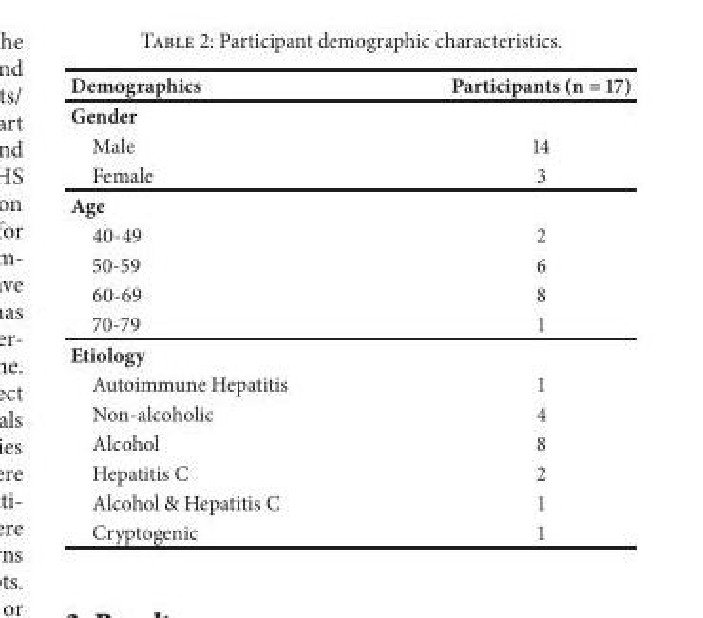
<table><thead><tr><td>Demographics</td><td>Participants (n = 17)</td></tr></thead><tbody><tr><td colspan="2">Gender</td></tr><tr><td>Male</td><td>14</td></tr><tr><td>Female</td><td>3</td></tr><tr><td colspan="2">Age</td></tr><tr><td>40-49</td><td>2</td></tr><tr><td>50-59</td><td>6</td></tr><tr><td>60-69</td><td>8</td></tr><tr><td>70-79</td><td>1</td></tr><tr><td colspan="2">Etiology</td></tr><tr><td>Autoimmune Hepatitis</td><td>1</td></tr><tr><td>Non-alcoholic</td><td>4</td></tr><tr><td>Alcohol</td><td>8</td></tr><tr><td>Hepatitis C</td><td>2</td></tr><tr><td>Alcohol &amp; Hepatitis C</td><td>1</td></tr><tr><td>Cryptogenic</td><td>1</td></tr></tbody></table>